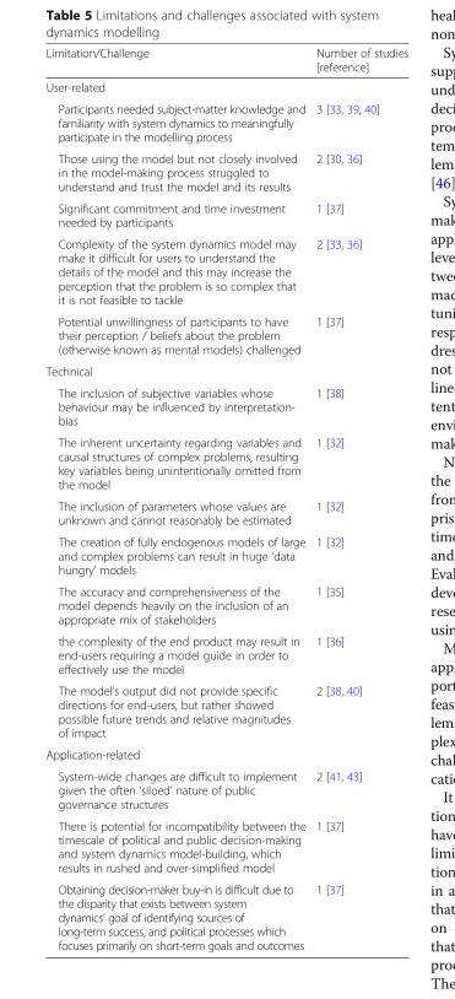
<table><thead><tr><td>Limitation/Challenge</td><td>Number of studies [reference]</td></tr></thead><tbody><tr><td colspan="2">User-related</td></tr><tr><td>Participants needed subject-matter knowledge and familiarity with system dynamics to meaningfully participate in the modelling process</td><td>3 [33, 39, 40]</td></tr><tr><td>Those using the model but not closely involved in the model-making process struggled to understand and trust the model and its results</td><td>2 [30, 36]</td></tr><tr><td>Significant commitment and time investment needed by participants</td><td>1 [37]</td></tr><tr><td>Complexity of the system dynamics model may make it difficult for users to understand the details of the model and this may increase the perception that the problem is so complex that it is not feasible to tackle</td><td>2 [33, 36]</td></tr><tr><td>Potential unwillingness of participants to have their perception / beliefs about the problem (otherwise known as mental models) challenged</td><td>1 [37]</td></tr><tr><td colspan="2">Technical</td></tr><tr><td>The inclusion of subjective variables whose behaviour may be influenced by interpretation- bias</td><td>1 [38]</td></tr><tr><td>The inherent uncertainty regarding variables and causal structures of complex problems, resulting key variables being unintentionally omitted from the model</td><td>1 [32]</td></tr><tr><td>The inclusion of parameters whose values are unknown and cannot reasonably be estimated</td><td>1 [32]</td></tr><tr><td>The creation of fully endogenous models of large and complex problems can result in huge ‘data hungry’ models</td><td>1 [32]</td></tr><tr><td>The accuracy and comprehensiveness of the model depends heavily on the inclusion of an appropriate mix of stakeholders</td><td>1 [35]</td></tr><tr><td>the complexity of the end product may result in end-users requiring a model guide in order to effectively use the model</td><td>1 [36]</td></tr><tr><td>The model’s output did not provide specific directions for end-users, but rather showed possible future trends and relative magnitudes of impact</td><td>2 [38, 40]</td></tr><tr><td colspan="2">Application-related</td></tr><tr><td>System-wide changes are difficult to implement given the often ‘siloed’ nature of public governance structures</td><td>2 [41, 43]</td></tr><tr><td>There is potential for incompatibility between the timescale of political and public decision-making and system dynamics model-building, which results in rushed and over-simplified model</td><td>1 [37]</td></tr><tr><td>Obtaining decision-maker buy-in is difficult due to the disparity that exists between system dynamics’ goal of identifying sources of long-term success, and political processes which focuses primarily on short-term goals and outcomes</td><td>1 [37]</td></tr></tbody></table>